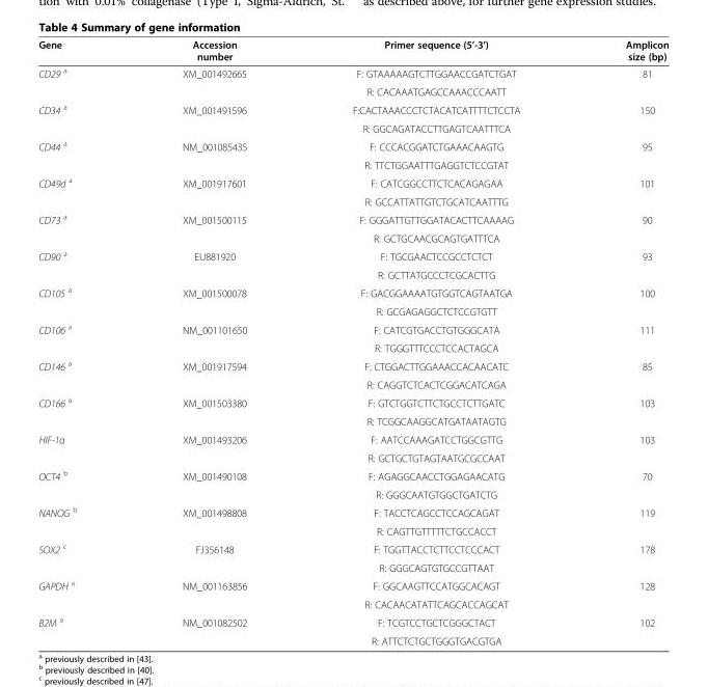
<table><thead><tr><td>Gene</td><td>Accession number</td><td>Primer sequence (5’-3’)</td><td>Amplicon size (bp)</td></tr></thead><tbody><tr><td rowspan="2">CD29 <sup>a</sup></td><td>XM_001492665</td><td>F: GTAAAAAGTCTTGGAACCGATCTGAT</td><td>81</td></tr><tr><td></td><td>R: CACAAATGAGCCAAACCCAATT</td><td></td></tr><tr><td rowspan="2">CD34 <sup>a</sup></td><td>XM_001491596</td><td>F:CACTAAACCCTCTACATCATTTTCTCCTA</td><td>150</td></tr><tr><td></td><td>R: GGCAGATACCTTGAGTCAATTTCA</td><td></td></tr><tr><td rowspan="2">CD44 <sup>a</sup></td><td>NM_001085435</td><td>F: CCCACGGATCTGAAACAAGTG</td><td>95</td></tr><tr><td></td><td>R: TTCTGGAATTTGAGGTCTCCGTAT</td><td></td></tr><tr><td rowspan="2">CD49d <sup>a</sup></td><td>XM_001917601</td><td>F: CATCGGCCTTCTCACAGAGAA</td><td>101</td></tr><tr><td></td><td>R: GCCATTATTGTCTGCATCAATTTG</td><td></td></tr><tr><td rowspan="2">CD73 <sup>a</sup></td><td>XM_001500115</td><td>F: GGGATTGTTGGATACACTTCAAAAG</td><td>90</td></tr><tr><td></td><td>R: GCTGCAACGCAGTGATTTCA</td><td></td></tr><tr><td rowspan="2">CD90 <sup>a</sup></td><td>EU881920</td><td>F: TGCGAACTCCGCCTCTCT</td><td>93</td></tr><tr><td></td><td>R: GCTTATGCCCTCGCACTTG</td><td></td></tr><tr><td rowspan="2">CD105 <sup>a</sup></td><td>XM_001500078</td><td>F: GACGGAAAATGTGGTCAGTAATGA</td><td>100</td></tr><tr><td></td><td>R: GCGAGAGGCTCTCCGTGTT</td><td></td></tr><tr><td rowspan="2">CD106 <sup>a</sup></td><td>NM_001101650</td><td>F: CATCGTGACCTGTGGGCATA</td><td>111</td></tr><tr><td></td><td>R: TGGGTTTCCCTCCACTAGCA</td><td></td></tr><tr><td rowspan="2">CD146 <sup>a</sup></td><td>XM_001917594</td><td>F: CTGGACTTGGAAACCACAACATC</td><td>85</td></tr><tr><td></td><td>R: CAGGTCTCACTCGGACATCAGA</td><td></td></tr><tr><td rowspan="2">CD166 <sup>a</sup></td><td>XM_001503380</td><td>F: GTCTGGTCTTCTGCCTCTTGATC</td><td>103</td></tr><tr><td></td><td>R: TCGGCAAGGCATGATAATAGTG</td><td></td></tr><tr><td rowspan="2">HIF-1α</td><td>XM_001493206</td><td>F: AATCCAAAGATCCTGGCGTTG</td><td>103</td></tr><tr><td></td><td>R: GCTGCTGTAGTAATGCGCCAAT</td><td></td></tr><tr><td rowspan="2">OCT4 <sup>b</sup></td><td>XM_001490108</td><td>F: AGAGGCAACCTGGAGAACATG</td><td>70</td></tr><tr><td></td><td>R: GGGCAATGTGGCTGATCTG</td><td></td></tr><tr><td rowspan="2">NANOG <sup>b</sup></td><td>XM_001498808</td><td>F: TACCTCAGCCTCCAGCAGAT</td><td>119</td></tr><tr><td></td><td>R: CAGTTGTTTTTCTGCCACCT</td><td></td></tr><tr><td rowspan="2">SOX2 <sup>c</sup></td><td>FJ356148</td><td>F: TGGTTACCTCTTCCTCCCACT</td><td>178</td></tr><tr><td></td><td>R: GGGCAGTGTGCCGTTAAT</td><td></td></tr><tr><td rowspan="2">GAPDH <sup>a</sup></td><td>NM_001163856</td><td>F: GGCAAGTTCCATGGCACAGT</td><td>128</td></tr><tr><td></td><td>R: CACAACATATTCAGCACCAGCAT</td><td></td></tr><tr><td rowspan="2">B2M <sup>a</sup></td><td>NM_001082502</td><td>F: TCGTCCTGCTCGGGCTACT</td><td>102</td></tr><tr><td></td><td>R: ATTCTCTGCTGGGTGACGTGA</td><td></td></tr></tbody></table>